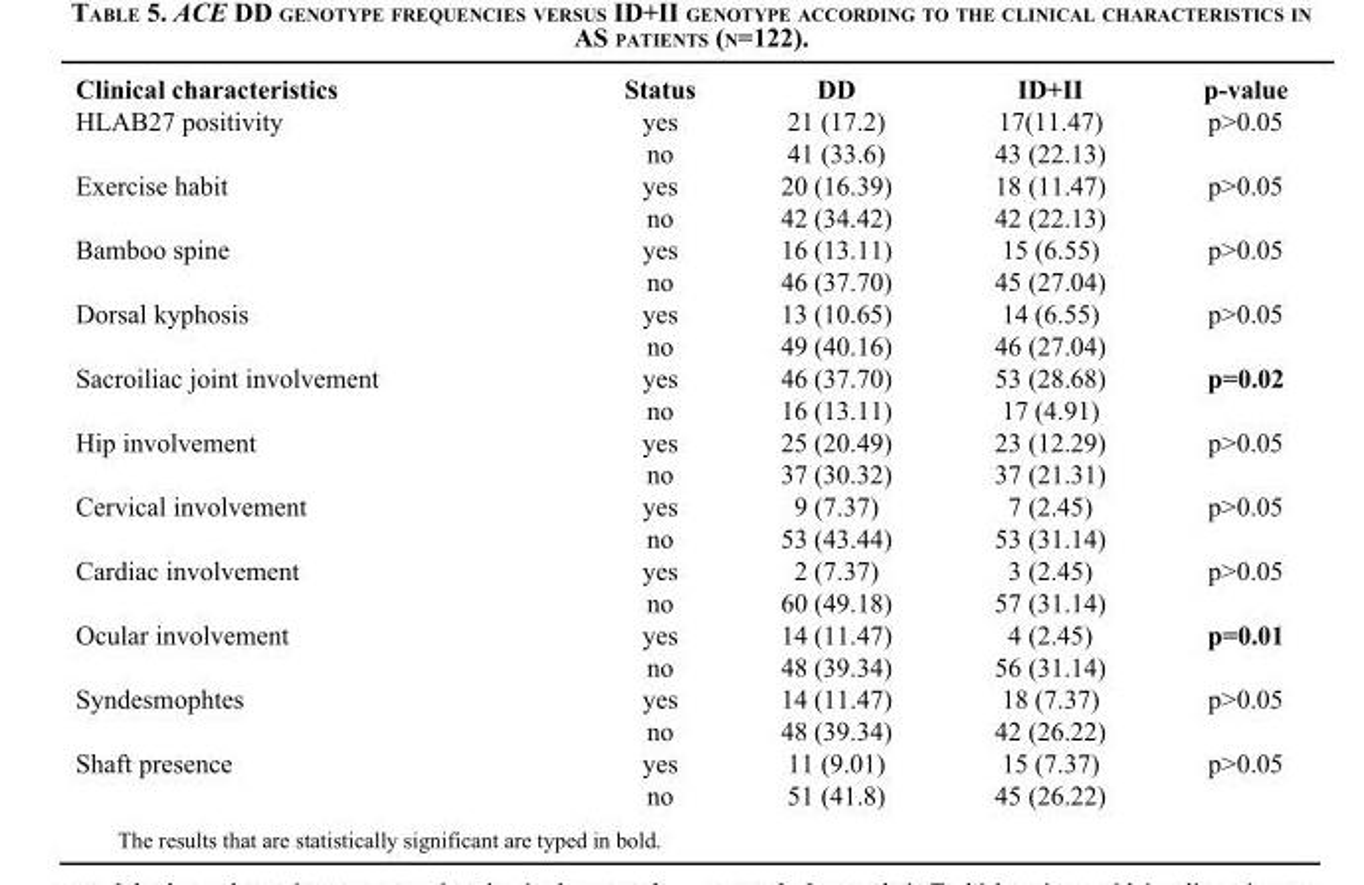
<table><thead><tr><td>Clinical characteristics</td><td>Status</td><td>DD</td><td>ID+II</td><td>p-value</td></tr></thead><tbody><tr><td rowspan="2">HLAB27 positivity</td><td>yes</td><td>21 (17.2)</td><td>17(11.47)</td><td>p&gt;0.05</td></tr><tr><td>no</td><td>41 (33.6)</td><td>43 (22.13)</td><td></td></tr><tr><td rowspan="2">Exercise habit</td><td>yes</td><td>20 (16.39)</td><td>18 (11.47)</td><td>p&gt;0.05</td></tr><tr><td>no</td><td>42 (34.42)</td><td>42 (22.13)</td><td></td></tr><tr><td rowspan="2">Bamboo spine</td><td>yes</td><td>16 (13.11)</td><td>15 (6.55)</td><td>p&gt;0.05</td></tr><tr><td>no</td><td>46 (37.70)</td><td>45 (27.04)</td><td></td></tr><tr><td rowspan="2">Dorsal kyphosis</td><td>yes</td><td>13 (10.65)</td><td>14 (6.55)</td><td>p&gt;0.05</td></tr><tr><td>no</td><td>49 (40.16)</td><td>46 (27.04)</td><td></td></tr><tr><td rowspan="2">Sacroiliac joint involvement</td><td>yes</td><td>46 (37.70)</td><td>53 (28.68)</td><td>p=0.02</td></tr><tr><td>no</td><td>16 (13.11)</td><td>17 (4.91)</td><td></td></tr><tr><td rowspan="2">Hip involvement</td><td>yes</td><td>25 (20.49)</td><td>23 (12.29)</td><td>p&gt;0.05</td></tr><tr><td>no</td><td>37 (30.32)</td><td>37 (21.31)</td><td></td></tr><tr><td rowspan="2">Cervical involvement</td><td>yes</td><td>9 (7.37)</td><td>7 (2.45)</td><td>p&gt;0.05</td></tr><tr><td>no</td><td>53 (43.44)</td><td>53 (31.14)</td><td></td></tr><tr><td rowspan="2">Cardiac involvement</td><td>yes</td><td>2 (7.37)</td><td>3 (2.45)</td><td>p&gt;0.05</td></tr><tr><td>no</td><td>60 (49.18)</td><td>57 (31.14)</td><td></td></tr><tr><td rowspan="2">Ocular involvement</td><td>yes</td><td>14 (11.47)</td><td>4 (2.45)</td><td>p=0.01</td></tr><tr><td>no</td><td>48 (39.34)</td><td>56 (31.14)</td><td></td></tr><tr><td rowspan="2">Syndesmophtes</td><td>yes</td><td>14 (11.47)</td><td>18 (7.37)</td><td>p&gt;0.05</td></tr><tr><td>no</td><td>48 (39.34)</td><td>42 (26.22)</td><td></td></tr><tr><td rowspan="2">Shaft presence</td><td>yes</td><td>11 (9.01)</td><td>15 (7.37)</td><td>p&gt;0.05</td></tr><tr><td>no</td><td>51 (41.8)</td><td>45 (26.22)</td><td></td></tr></tbody></table>